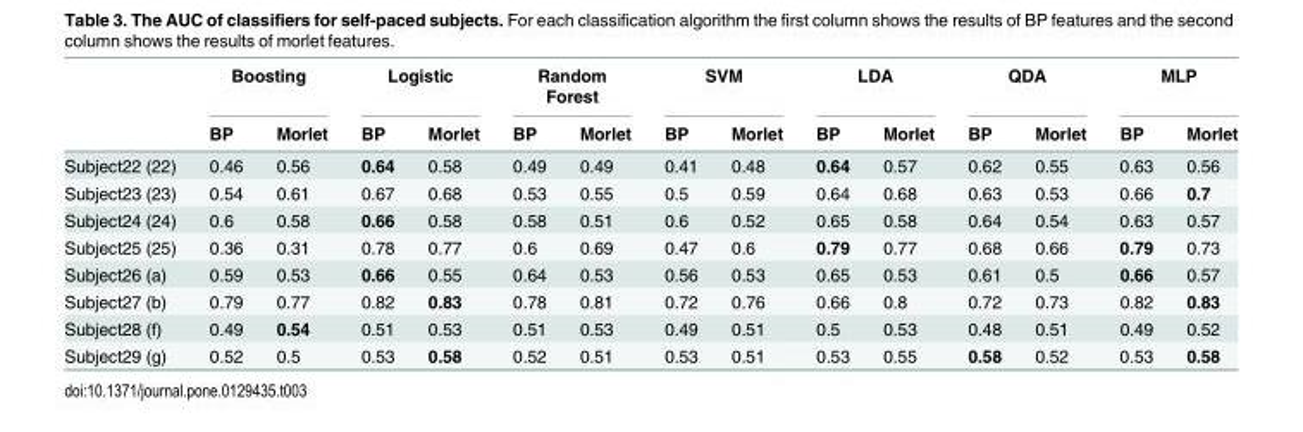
<table><thead><tr><td rowspan="2"></td><td colspan="2">Boosting</td><td colspan="2">Logistic</td><td colspan="2">Random Forest</td><td colspan="2">SVM</td><td colspan="2">LDA</td><td colspan="2">QDA</td><td colspan="2">MLP</td></tr><tr><td>BP</td><td>Morlet</td><td>BP</td><td>Morlet</td><td>BP</td><td>Morlet</td><td>BP</td><td>Morlet</td><td>BP</td><td>Morlet</td><td>BP</td><td>Morlet</td><td>BP</td><td>Morlet</td></tr></thead><tbody><tr><td>Subject22 (22)</td><td>0.46</td><td>0.56</td><td>0.64</td><td>0.58</td><td>0.49</td><td>0.49</td><td>0.41</td><td>0.48</td><td>0.64</td><td>0.57</td><td>0.62</td><td>0.55</td><td>0.63</td><td>0.56</td></tr><tr><td>Subject23 (23)</td><td>0.54</td><td>0.61</td><td>0.67</td><td>0.68</td><td>0.53</td><td>0.55</td><td>0.5</td><td>0.59</td><td>0.64</td><td>0.68</td><td>0.63</td><td>0.53</td><td>0.66</td><td>0.7</td></tr><tr><td>Subject24 (24)</td><td>0.6</td><td>0.58</td><td>0.66</td><td>0.58</td><td>0.58</td><td>0.51</td><td>0.6</td><td>0.52</td><td>0.65</td><td>0.58</td><td>0.64</td><td>0.54</td><td>0.63</td><td>0.57</td></tr><tr><td>Subject25 (25)</td><td>0.36</td><td>0.31</td><td>0.78</td><td>0.77</td><td>0.6</td><td>0.69</td><td>0.47</td><td>0.6</td><td>0.79</td><td>0.77</td><td>0.68</td><td>0.66</td><td>0.79</td><td>0.73</td></tr><tr><td>Subject26 (a)</td><td>0.59</td><td>0.53</td><td>0.66</td><td>0.55</td><td>0.64</td><td>0.53</td><td>0.56</td><td>0.53</td><td>0.65</td><td>0.53</td><td>0.61</td><td>0.5</td><td>0.66</td><td>0.57</td></tr><tr><td>Subject27 (b)</td><td>0.79</td><td>0.77</td><td>0.82</td><td>0.83</td><td>0.78</td><td>0.81</td><td>0.72</td><td>0.76</td><td>0.66</td><td>0.8</td><td>0.72</td><td>0.73</td><td>0.82</td><td>0.83</td></tr><tr><td>Subject28 (f)</td><td>0.49</td><td>0.54</td><td>0.51</td><td>0.53</td><td>0.51</td><td>0.53</td><td>0.49</td><td>0.51</td><td>0.5</td><td>0.53</td><td>0.48</td><td>0.51</td><td>0.49</td><td>0.52</td></tr><tr><td>Subject29 (g)</td><td>0.52</td><td>0.5</td><td>0.53</td><td>0.58</td><td>0.52</td><td>0.51</td><td>0.53</td><td>0.51</td><td>0.53</td><td>0.55</td><td>0.58</td><td>0.52</td><td>0.53</td><td>0.58</td></tr></tbody></table>